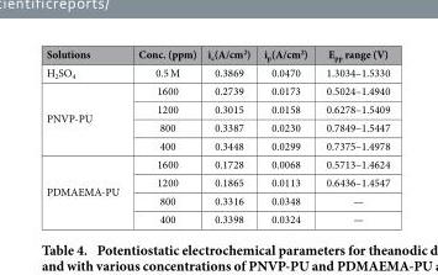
<table><thead><tr><td>Solutions</td><td>Conc. (ppm)</td><td>i<sub>c</sub>(A/cm<sup>2</sup>)</td><td>i<sub>p</sub>(A/cm<sup>2</sup>)</td><td>E<sub>pp</sub> range (V)</td></tr></thead><tbody><tr><td>H<sub>2</sub>SO<sub>4</sub></td><td>0.5 M</td><td>0.3869</td><td>0.0470</td><td>1.3034–1.5330</td></tr><tr><td rowspan="4">PNVP-PU</td><td>1600</td><td>0.2739</td><td>0.0173</td><td>0.5024–1.4940</td></tr><tr><td>1200</td><td>0.3015</td><td>0.0158</td><td>0.6278–1.5409</td></tr><tr><td>800</td><td>0.3387</td><td>0.0230</td><td>0.7849–1.5447</td></tr><tr><td>400</td><td>0.3448</td><td>0.0299</td><td>0.7375–1.4978</td></tr><tr><td rowspan="4">PDMAEMA-PU</td><td>1600</td><td>0.1728</td><td>0.0068</td><td>0.5713–1.4624</td></tr><tr><td>1200</td><td>0.1865</td><td>0.0113</td><td>0.6436–1.4547</td></tr><tr><td>800</td><td>0.3316</td><td>0.0348</td><td>—</td></tr><tr><td>400</td><td>0.3398</td><td>0.0324</td><td>—</td></tr></tbody></table>